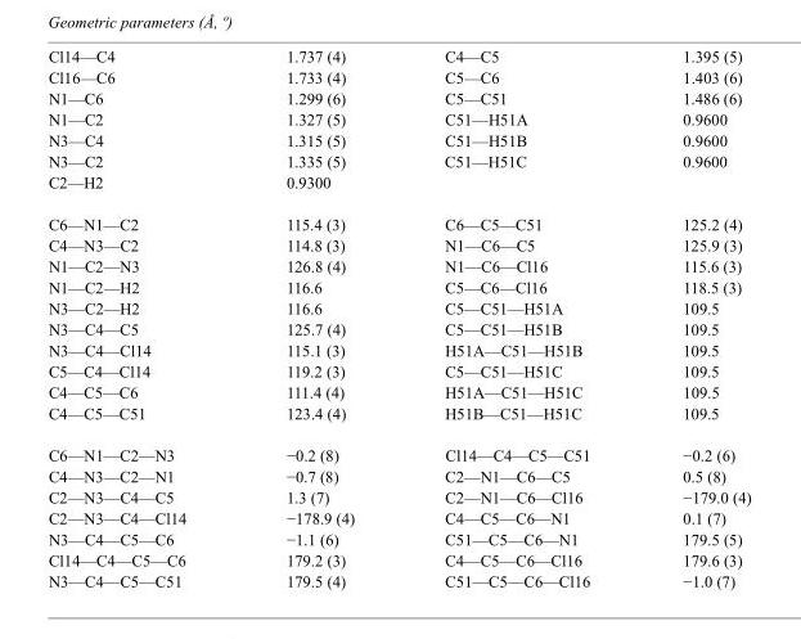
<table><tbody><tr><td>Cl14—C4</td><td>1.737 (4)</td><td>C4—C5</td><td>1.395 (5)</td></tr><tr><td>Cl16—C6</td><td>1.733 (4)</td><td>C5—C6</td><td>1.403 (6)</td></tr><tr><td>N1—C6</td><td>1.299 (6)</td><td>C5—C51</td><td>1.486 (6)</td></tr><tr><td>N1—C2</td><td>1.327 (5)</td><td>C51—H51A</td><td>0.9600</td></tr><tr><td>N3—C4</td><td>1.315 (5)</td><td>C51—H51B</td><td>0.9600</td></tr><tr><td>N3—C2</td><td>1.335 (5)</td><td>C51—H51C</td><td>0.9600</td></tr><tr><td>C2—H2</td><td>0.9300</td><td></td><td></td></tr><tr><td>C6—N1—C2</td><td>115.4 (3)</td><td>C6—C5—C51</td><td>125.2 (4)</td></tr><tr><td>C4—N3—C2</td><td>114.8 (3)</td><td>N1—C6—C5</td><td>125.9 (3)</td></tr><tr><td>N1—C2—N3</td><td>126.8 (4)</td><td>N1—C6—Cl16</td><td>115.6 (3)</td></tr><tr><td>N1—C2—H2</td><td>116.6</td><td>C5—C6—Cl16</td><td>118.5 (3)</td></tr><tr><td>N3—C2—H2</td><td>116.6</td><td>C5—C51—H51A</td><td>109.5</td></tr><tr><td>N3—C4—C5</td><td>125.7 (4)</td><td>C5—C51—H51B</td><td>109.5</td></tr><tr><td>N3—C4—Cl14</td><td>115.1 (3)</td><td>H51A—C51—H51B</td><td>109.5</td></tr><tr><td>C5—C4—Cl14</td><td>119.2 (3)</td><td>C5—C51—H51C</td><td>109.5</td></tr><tr><td>C4—C5—C6</td><td>111.4 (4)</td><td>H51A—C51—H51C</td><td>109.5</td></tr><tr><td>C4—C5—C51</td><td>123.4 (4)</td><td>H51B—C51—H51C</td><td>109.5</td></tr><tr><td>C6—N1—C2—N3</td><td>−0.2 (8)</td><td>Cl14—C4—C5—C51</td><td>−0.2 (6)</td></tr><tr><td>C4—N3—C2—N1</td><td>−0.7 (8)</td><td>C2—N1—C6—C5</td><td>0.5 (8)</td></tr><tr><td>C2—N3—C4—C5</td><td>1.3 (7)</td><td>C2—N1—C6—Cl16</td><td>−179.0 (4)</td></tr><tr><td>C2—N3—C4—Cl14</td><td>−178.9 (4)</td><td>C4—C5—C6—N1</td><td>0.1 (7)</td></tr><tr><td>N3—C4—C5—C6</td><td>−1.1 (6)</td><td>C51—C5—C6—N1</td><td>179.5 (5)</td></tr><tr><td>Cl14—C4—C5—C6</td><td>179.2 (3)</td><td>C4—C5—C6—Cl16</td><td>179.6 (3)</td></tr><tr><td>N3—C4—C5—C51</td><td>179.5 (4)</td><td>C51—C5—C6—Cl16</td><td>−1.0 (7)</td></tr></tbody></table>